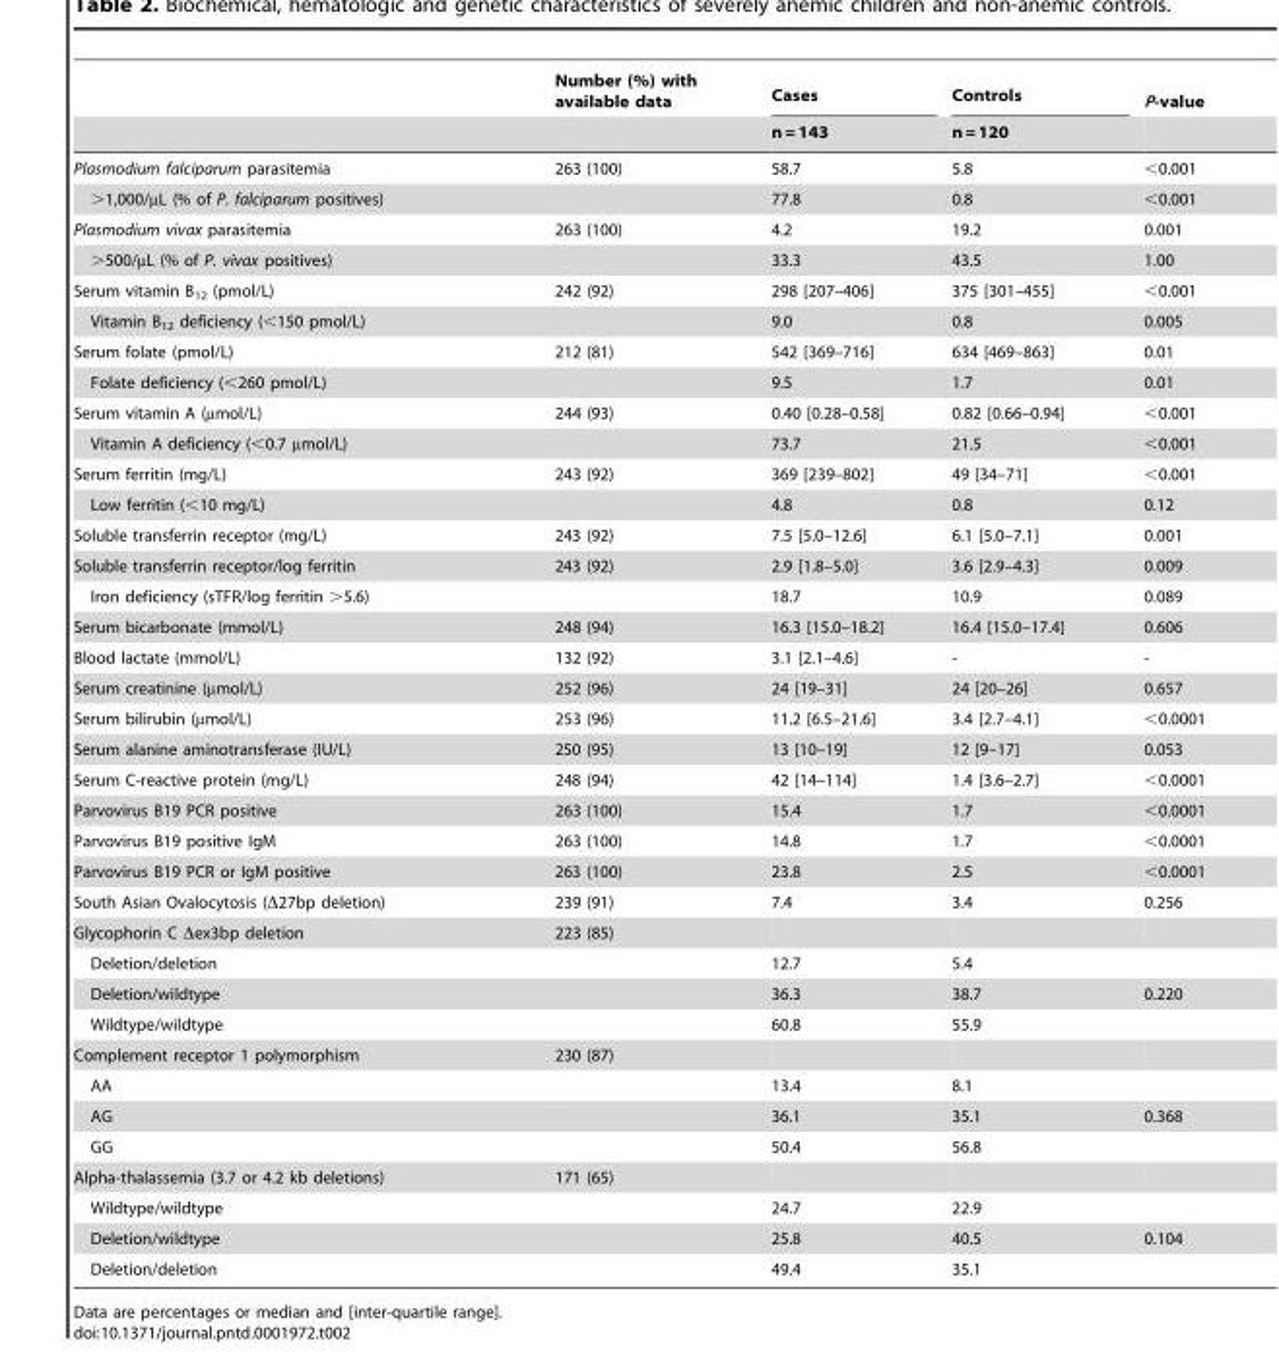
<table><thead><tr><td rowspan="2"></td><td rowspan="2">Number (%) with available data</td><td rowspan="2">Cases n = 143</td><td rowspan="2">Controls n = 120</td><td rowspan="2">P-value</td></tr><tr></tr></thead><tbody><tr><td>Plasmodium falciparum parasitemia</td><td>263 (100)</td><td>58.7</td><td>5.8</td><td>&lt;0.001</td></tr><tr><td>&gt;1,000/µL (% of P. falciparum positives)</td><td></td><td>77.8</td><td>0.8</td><td>&lt;0.001</td></tr><tr><td>Plasmodium vivax parasitemia</td><td>263 (100)</td><td>4.2</td><td>19.2</td><td>0.001</td></tr><tr><td>&gt;500/µL (% of P. vivax positives)</td><td></td><td>33.3</td><td>43.5</td><td>1.00</td></tr><tr><td>Serum vitamin B<sub>12</sub> (pmol/L)</td><td>242 (92)</td><td>298 [207–406]</td><td>375 [301–455]</td><td>&lt;0.001</td></tr><tr><td>Vitamin B<sub>12</sub> deficiency (&lt;150 pmol/L)</td><td></td><td>9.0</td><td>0.8</td><td>0.005</td></tr><tr><td>Serum folate (pmol/L)</td><td>212 (81)</td><td>542 [369–716]</td><td>634 [469–863]</td><td>0.01</td></tr><tr><td>Folate deficiency (&lt;260 pmol/L)</td><td></td><td>9.5</td><td>1.7</td><td>0.01</td></tr><tr><td>Serum vitamin A (µmol/L)</td><td>244 (93)</td><td>0.40 [0.28–0.58]</td><td>0.82 [0.66–0.94]</td><td>&lt;0.001</td></tr><tr><td>Vitamin A deficiency (&lt;0.7 µmol/L)</td><td></td><td>73.7</td><td>21.5</td><td>&lt;0.001</td></tr><tr><td>Serum ferritin (mg/L)</td><td>243 (92)</td><td>369 [239–802]</td><td>49 [34–71]</td><td>&lt;0.001</td></tr><tr><td>Low ferritin (&lt;10 mg/L)</td><td></td><td>4.8</td><td>0.8</td><td>0.12</td></tr><tr><td>Soluble transferrin receptor (mg/L)</td><td>243 (92)</td><td>7.5 [5.0–12.6]</td><td>6.1 [5.0–7.1]</td><td>0.001</td></tr><tr><td>Soluble transferrin receptor/log ferritin</td><td>243 (92)</td><td>2.9 [1.8–5.0]</td><td>3.6 [2.9–4.3]</td><td>0.009</td></tr><tr><td>Iron deficiency (sTFR/log ferritin &gt;5.6)</td><td></td><td>18.7</td><td>10.9</td><td>0.089</td></tr><tr><td>Serum bicarbonate (mmol/L)</td><td>248 (94)</td><td>16.3 [15.0–18.2]</td><td>16.4 [15.0–17.4]</td><td>0.606</td></tr><tr><td>Blood lactate (mmol/L)</td><td>132 (92)</td><td>3.1 [2.1–4.6]</td><td>-</td><td>-</td></tr><tr><td>Serum creatinine (µmol/L)</td><td>252 (96)</td><td>24 [19–31]</td><td>24 [20–26]</td><td>0.657</td></tr><tr><td>Serum bilirubin (µmol/L)</td><td>253 (96)</td><td>11.2 [6.5–21.6]</td><td>3.4 [2.7–4.1]</td><td>&lt;0.0001</td></tr><tr><td>Serum alanine aminotransferase (IU/L)</td><td>250 (95)</td><td>13 [10–19]</td><td>12 [9–17]</td><td>0.053</td></tr><tr><td>Serum C-reactive protein (mg/L)</td><td>248 (94)</td><td>42 [14–114]</td><td>1.4 [3.6–2.7]</td><td>&lt;0.0001</td></tr><tr><td>Parvovirus B19 PCR positive</td><td>263 (100)</td><td>15.4</td><td>1.7</td><td>&lt;0.0001</td></tr><tr><td>Parvovirus B19 positive IgM</td><td>263 (100)</td><td>14.8</td><td>1.7</td><td>&lt;0.0001</td></tr><tr><td>Parvovirus B19 PCR or IgM positive</td><td>263 (100)</td><td>23.8</td><td>2.5</td><td>&lt;0.0001</td></tr><tr><td>South Asian Ovalocytosis (Δ27bp deletion)</td><td>239 (91)</td><td>7.4</td><td>3.4</td><td>0.256</td></tr><tr><td>Glycophorin C Δex3bp deletion</td><td>223 (85)</td><td></td><td></td><td></td></tr><tr><td>Deletion/deletion</td><td></td><td>12.7</td><td>5.4</td><td></td></tr><tr><td>Deletion/wildtype</td><td></td><td>36.3</td><td>38.7</td><td>0.220</td></tr><tr><td>Wildtype/wildtype</td><td></td><td>60.8</td><td>55.9</td><td></td></tr><tr><td>Complement receptor 1 polymorphism</td><td>230 (87)</td><td></td><td></td><td></td></tr><tr><td>AA</td><td></td><td>13.4</td><td>8.1</td><td></td></tr><tr><td>AG</td><td></td><td>36.1</td><td>35.1</td><td>0.368</td></tr><tr><td>GG</td><td></td><td>50.4</td><td>56.8</td><td></td></tr><tr><td>Alpha-thalassemia (3.7 or 4.2 kb deletions)</td><td>171 (65)</td><td></td><td></td><td></td></tr><tr><td>Wildtype/wildtype</td><td></td><td>24.7</td><td>22.9</td><td></td></tr><tr><td>Deletion/wildtype</td><td></td><td>25.8</td><td>40.5</td><td>0.104</td></tr><tr><td>Deletion/deletion</td><td></td><td>49.4</td><td>35.1</td><td></td></tr></tbody></table>